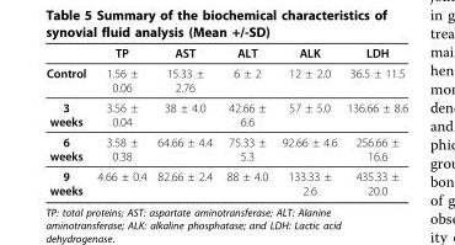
<table><thead><tr><td></td><td>TP</td><td>AST</td><td>ALT</td><td>ALK</td><td>LDH</td></tr></thead><tbody><tr><td>Control</td><td>1.56 ± 0.06</td><td>15.33 ± 2.76</td><td>6 ± 2</td><td>12 ± 2.0</td><td>36.5 ± 11.5</td></tr><tr><td>3 weeks</td><td>3.56 ± 0.04</td><td>38 ± 4.0</td><td>42.66 ± 6.6</td><td>57 ± 5.0</td><td>136.66 ± 8.6</td></tr><tr><td>6 weeks</td><td>3.58 ± 0.38</td><td>64.66 ± 4.4</td><td>75.33 ± 5.3</td><td>92.66 ± 4.6</td><td>256.66 ± 16.6</td></tr><tr><td>9 weeks</td><td>4.66 ± 0.4</td><td>82.66 ± 2.4</td><td>88 ± 4.0</td><td>133.33 ± 2.6</td><td>435.33 ± 20.0</td></tr></tbody></table>